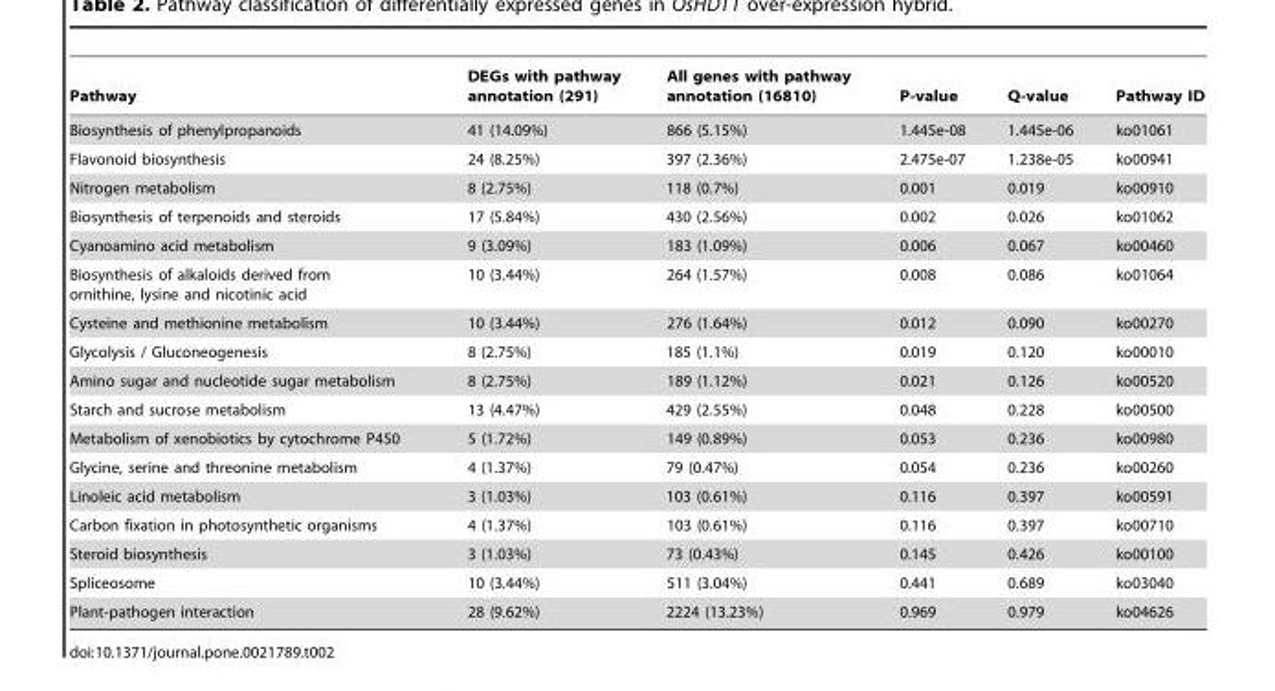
<table><thead><tr><td>Pathway</td><td>DEGs with pathway annotation (291)</td><td>All genes with pathway annotation (16810)</td><td>P-value</td><td>Q-value</td><td>Pathway ID</td></tr></thead><tbody><tr><td>Biosynthesis of phenylpropanoids</td><td>41 (14.09%)</td><td>866 (5.15%)</td><td>1.445e-08</td><td>1.445e-06</td><td>ko01061</td></tr><tr><td>Flavonoid biosynthesis</td><td>24 (8.25%)</td><td>397 (2.36%)</td><td>2.475e-07</td><td>1.238e-05</td><td>ko00941</td></tr><tr><td>Nitrogen metabolism</td><td>8 (2.75%)</td><td>118 (0.7%)</td><td>0.001</td><td>0.019</td><td>ko00910</td></tr><tr><td>Biosynthesis of terpenoids and steroids</td><td>17 (5.84%)</td><td>430 (2.56%)</td><td>0.002</td><td>0.026</td><td>ko01062</td></tr><tr><td>Cyanoamino acid metabolism</td><td>9 (3.09%)</td><td>183 (1.09%)</td><td>0.006</td><td>0.067</td><td>ko00460</td></tr><tr><td>Biosynthesis of alkaloids derived from ornithine, lysine and nicotinic acid</td><td>10 (3.44%)</td><td>264 (1.57%)</td><td>0.008</td><td>0.086</td><td>ko01064</td></tr><tr><td>Cysteine and methionine metabolism</td><td>10 (3.44%)</td><td>276 (1.64%)</td><td>0.012</td><td>0.090</td><td>ko00270</td></tr><tr><td>Glycolysis / Gluconeogenesis</td><td>8 (2.75%)</td><td>185 (1.1%)</td><td>0.019</td><td>0.120</td><td>ko00010</td></tr><tr><td>Amino sugar and nucleotide sugar metabolism</td><td>8 (2.75%)</td><td>189 (1.12%)</td><td>0.021</td><td>0.126</td><td>ko00520</td></tr><tr><td>Starch and sucrose metabolism</td><td>13 (4.47%)</td><td>429 (2.55%)</td><td>0.048</td><td>0.228</td><td>ko00500</td></tr><tr><td>Metabolism of xenobiotics by cytochrome P450</td><td>5 (1.72%)</td><td>149 (0.89%)</td><td>0.053</td><td>0.236</td><td>ko00980</td></tr><tr><td>Glycine, serine and threonine metabolism</td><td>4 (1.37%)</td><td>79 (0.47%)</td><td>0.054</td><td>0.236</td><td>ko00260</td></tr><tr><td>Linoleic acid metabolism</td><td>3 (1.03%)</td><td>103 (0.61%)</td><td>0.116</td><td>0.397</td><td>ko00591</td></tr><tr><td>Carbon fixation in photosynthetic organisms</td><td>4 (1.37%)</td><td>103 (0.61%)</td><td>0.116</td><td>0.397</td><td>ko00710</td></tr><tr><td>Steroid biosynthesis</td><td>3 (1.03%)</td><td>73 (0.43%)</td><td>0.145</td><td>0.426</td><td>ko00100</td></tr><tr><td>Spliceosome</td><td>10 (3.44%)</td><td>511 (3.04%)</td><td>0.441</td><td>0.689</td><td>ko03040</td></tr><tr><td>Plant-pathogen interaction</td><td>28 (9.62%)</td><td>2224 (13.23%)</td><td>0.969</td><td>0.979</td><td>ko04626</td></tr></tbody></table>